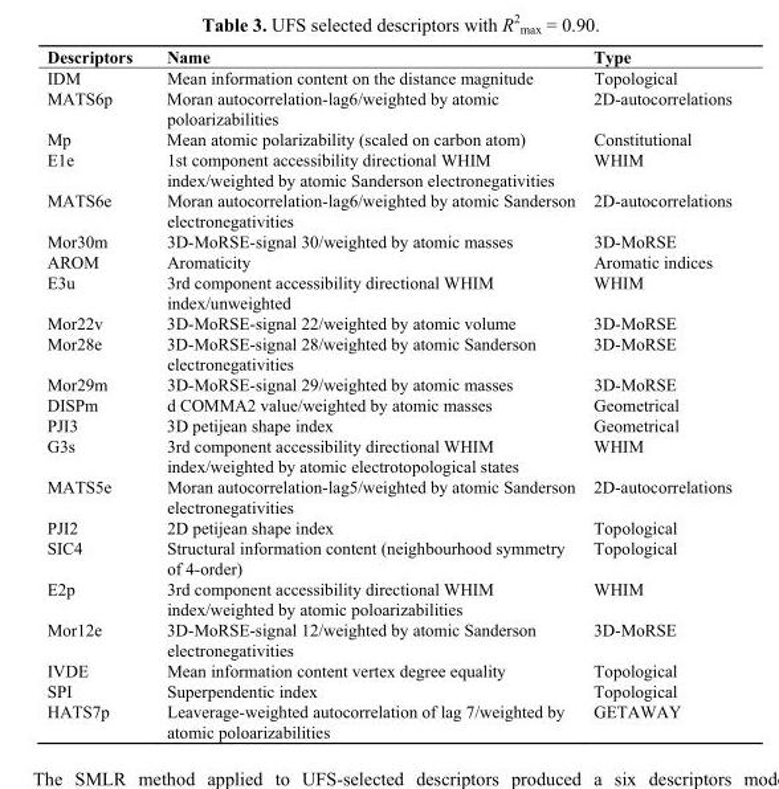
<table><thead><tr><td>Descriptors</td><td>Name</td><td>Type</td></tr></thead><tbody><tr><td>IDM</td><td>Mean information content on the distance magnitude</td><td>Topological</td></tr><tr><td>MATS6p</td><td>Moran autocorrelation-lag6/weighted by atomic poloarizabilities</td><td>2D-autocorrelations</td></tr><tr><td>Mp</td><td>Mean atomic polarizability (scaled on carbon atom)</td><td>Constitutional</td></tr><tr><td>E1e</td><td>1st component accessibility directional WHIM index/weighted by atomic Sanderson electronegativities</td><td>WHIM</td></tr><tr><td>MATS6e</td><td>Moran autocorrelation-lag6/weighted by atomic Sanderson electronegativities</td><td>2D-autocorrelations</td></tr><tr><td>Mor30m</td><td>3D-MoRSE-signal 30/weighted by atomic masses</td><td>3D-MoRSE</td></tr><tr><td>AROM</td><td>Aromaticity</td><td>Aromatic indices</td></tr><tr><td>E3u</td><td>3rd component accessibility directional WHIM index/unweighted</td><td>WHIM</td></tr><tr><td>Mor22v</td><td>3D-MoRSE-signal 22/weighted by atomic volume</td><td>3D-MoRSE</td></tr><tr><td>Mor28e</td><td>3D-MoRSE-signal 28/weighted by atomic Sanderson electronegativities</td><td>3D-MoRSE</td></tr><tr><td>Mor29m</td><td>3D-MoRSE-signal 29/weighted by atomic masses</td><td>3D-MoRSE</td></tr><tr><td>DISPm</td><td>d COMMA2 value/weighted by atomic masses</td><td>Geometrical</td></tr><tr><td>PJI3</td><td>3D petijean shape index</td><td>Geometrical</td></tr><tr><td>G3s</td><td>3rd component accessibility directional WHIM index/weighted by atomic electrotopological states</td><td>WHIM</td></tr><tr><td>MATS5e</td><td>Moran autocorrelation-lag5/weighted by atomic Sanderson electronegativities</td><td>2D-autocorrelations</td></tr><tr><td>PJI2</td><td>2D petijean shape index</td><td>Topological</td></tr><tr><td>SIC4</td><td>Structural information content (neighbourhood symmetry of 4-order)</td><td>Topological</td></tr><tr><td>E2p</td><td>3rd component accessibility directional WHIM index/weighted by atomic poloarizabilities</td><td>WHIM</td></tr><tr><td>Mor12e</td><td>3D-MoRSE-signal 12/weighted by atomic Sanderson electronegativities</td><td>3D-MoRSE</td></tr><tr><td>IVDE</td><td>Mean information content vertex degree equality</td><td>Topological</td></tr><tr><td>SPI</td><td>Superpendentic index</td><td>Topological</td></tr><tr><td>HATS7p</td><td>Leaverage-weighted autocorrelation of lag 7/weighted by atomic poloarizabilities</td><td>GETAWAY</td></tr></tbody></table>